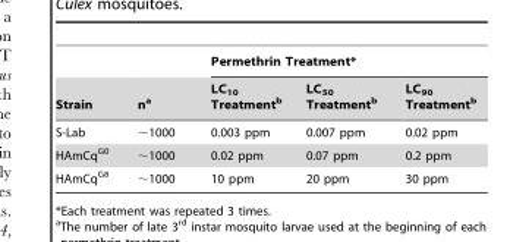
<table><thead><tr><td rowspan="2">Strain</td><td rowspan="2">n<sup>a</sup></td><td colspan="3">Permethrin Treatment*</td></tr><tr><td>LC<sub>10</sub> Treatment<sup>b</sup></td><td>LC<sub>50</sub> Treatment<sup>b</sup></td><td>LC<sub>90</sub> Treatment<sup>b</sup></td></tr></thead><tbody><tr><td>S-Lab</td><td>∼1000</td><td>0.003 ppm</td><td>0.007 ppm</td><td>0.02 ppm</td></tr><tr><td>HAmCq<sup>G0</sup></td><td>∼1000</td><td>0.02 ppm</td><td>0.07 ppm</td><td>0.2 ppm</td></tr><tr><td>HAmCq<sup>G8</sup></td><td>∼1000</td><td>10 ppm</td><td>20 ppm</td><td>30 ppm</td></tr></tbody></table>